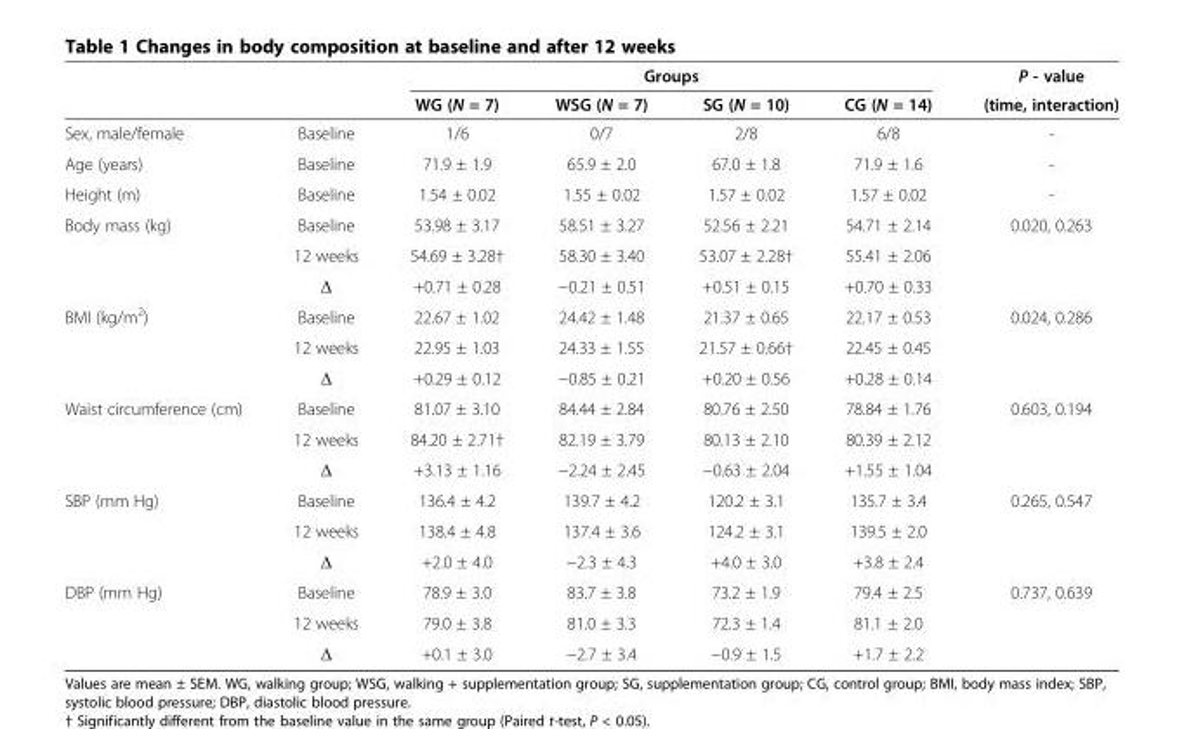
<table><thead><tr><td rowspan="2"></td><td rowspan="2"></td><td colspan="4">Groups</td><td rowspan="2">P - value (time, interaction)</td></tr><tr><td>WG (N = 7)</td><td>WSG (N = 7)</td><td>SG (N = 10)</td><td>CG (N = 14)</td></tr></thead><tbody><tr><td>Sex, male/female</td><td>Baseline</td><td>1/6</td><td>0/7</td><td>2/8</td><td>6/8</td><td>-</td></tr><tr><td>Age (years)</td><td>Baseline</td><td>71.9 ± 1.9</td><td>65.9 ± 2.0</td><td>67.0 ± 1.8</td><td>71.9 ± 1.6</td><td>-</td></tr><tr><td>Height (m)</td><td>Baseline</td><td>1.54 ± 0.02</td><td>1.55 ± 0.02</td><td>1.57 ± 0.02</td><td>1.57 ± 0.02</td><td>-</td></tr><tr><td rowspan="3">Body mass (kg)</td><td>Baseline</td><td>53.98 ± 3.17</td><td>58.51 ± 3.27</td><td>52.56 ± 2.21</td><td>54.71 ± 2.14</td><td rowspan="3">0.020, 0.263</td></tr><tr><td>12 weeks</td><td>54.69 ± 3.28†</td><td>58.30 ± 3.40</td><td>53.07 ± 2.28†</td><td>55.41 ± 2.06</td></tr><tr><td>Δ</td><td>+0.71 ± 0.28</td><td>−0.21 ± 0.51</td><td>+0.51 ± 0.15</td><td>+0.70 ± 0.33</td></tr><tr><td rowspan="3">BMI (kg/m<sup>2</sup>)</td><td>Baseline</td><td>22.67 ± 1.02</td><td>24.42 ± 1.48</td><td>21.37 ± 0.65</td><td>22.17 ± 0.53</td><td rowspan="3">0.024, 0.286</td></tr><tr><td>12 weeks</td><td>22.95 ± 1.03</td><td>24.33 ± 1.55</td><td>21.57 ± 0.66†</td><td>22.45 ± 0.45</td></tr><tr><td>Δ</td><td>+0.29 ± 0.12</td><td>−0.85 ± 0.21</td><td>+0.20 ± 0.56</td><td>+0.28 ± 0.14</td></tr><tr><td rowspan="3">Waist circumference (cm)</td><td>Baseline</td><td>81.07 ± 3.10</td><td>84.44 ± 2.84</td><td>80.76 ± 2.50</td><td>78.84 ± 1.76</td><td rowspan="3">0.603, 0.194</td></tr><tr><td>12 weeks</td><td>84.20 ± 2.71†</td><td>82.19 ± 3.79</td><td>80.13 ± 2.10</td><td>80.39 ± 2.12</td></tr><tr><td>Δ</td><td>+3.13 ± 1.16</td><td>−2.24 ± 2.45</td><td>−0.63 ± 2.04</td><td>+1.55 ± 1.04</td></tr><tr><td rowspan="3">SBP (mm Hg)</td><td>Baseline</td><td>136.4 ± 4.2</td><td>139.7 ± 4.2</td><td>120.2 ± 3.1</td><td>135.7 ± 3.4</td><td rowspan="3">0.265, 0.547</td></tr><tr><td>12 weeks</td><td>138.4 ± 4.8</td><td>137.4 ± 3.6</td><td>124.2 ± 3.1</td><td>139.5 ± 2.0</td></tr><tr><td>Δ</td><td>+2.0 ± 4.0</td><td>−2.3 ± 4.3</td><td>+4.0 ± 3.0</td><td>+3.8 ± 2.4</td></tr><tr><td rowspan="3">DBP (mm Hg)</td><td>Baseline</td><td>78.9 ± 3.0</td><td>83.7 ± 3.8</td><td>73.2 ± 1.9</td><td>79.4 ± 2.5</td><td rowspan="3">0.737, 0.639</td></tr><tr><td>12 weeks</td><td>79.0 ± 3.8</td><td>81.0 ± 3.3</td><td>72.3 ± 1.4</td><td>81.1 ± 2.0</td></tr><tr><td>Δ</td><td>+0.1 ± 3.0</td><td>−2.7 ± 3.4</td><td>−0.9 ± 1.5</td><td>+1.7 ± 2.2</td></tr></tbody></table>